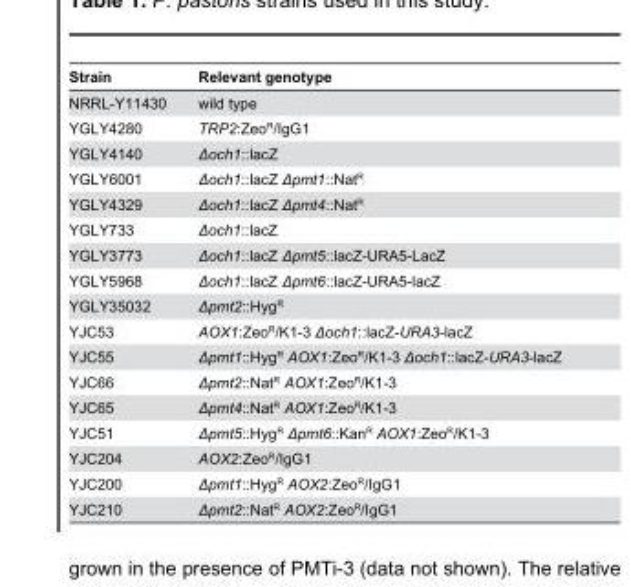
<table><thead><tr><td>Strain</td><td>Relevant genotype</td></tr></thead><tbody><tr><td>NRRL-Y11430</td><td>wild type</td></tr><tr><td>YGLY4280</td><td>TRP2:Zeo<sup>R</sup>/IgG1</td></tr><tr><td>YGLY4140</td><td>Δoch1::lacZ</td></tr><tr><td>YGLY6001</td><td>Δoch1::lacZ Δpmt1::Nat<sup>R</sup></td></tr><tr><td>YGLY4329</td><td>Δoch1::lacZ Δpmt4::Nat<sup>R</sup></td></tr><tr><td>YGLY733</td><td>Δoch1::lacZ</td></tr><tr><td>YGLY3773</td><td>Δoch1::lacZ Δpmt5::lacZ-URA5-LacZ</td></tr><tr><td>YGLY5968</td><td>Δoch1::lacZ Δpmt6::lacZ-URA5-lacZ</td></tr><tr><td>YGLY35032</td><td>Δpmt2::Hyg<sup>R</sup></td></tr><tr><td>YJC53</td><td>AOX1:Zeo<sup>R</sup>/K1-3 Δoch1::lacZ-URA3-lacZ</td></tr><tr><td>YJC55</td><td>Δpmt1::Hyg<sup>R</sup> AOX1:Zeo<sup>R</sup>/K1-3 Δoch1::lacZ-URA3-lacZ</td></tr><tr><td>YJC66</td><td>Δpmt2::Nat<sup>R</sup> AOX1:Zeo<sup>R</sup>/K1-3</td></tr><tr><td>YJC65</td><td>Δpmt4::Nat<sup>R</sup> AOX1:Zeo<sup>R</sup>/K1-3</td></tr><tr><td>YJC51</td><td>Δpmt5::Hyg<sup>R</sup> Δpmt6::Kan<sup>R</sup> AOX1:Zeo<sup>R</sup>/K1-3</td></tr><tr><td>YJC204</td><td>AOX2:Zeo<sup>R</sup>/IgG1</td></tr><tr><td>YJC200</td><td>Δpmt1::Hyg<sup>R</sup> AOX2:Zeo<sup>R</sup>/IgG1</td></tr><tr><td>YJC210</td><td>Δpmt2::Nat<sup>R</sup> AOX2:Zeo<sup>R</sup>/IgG1</td></tr></tbody></table>